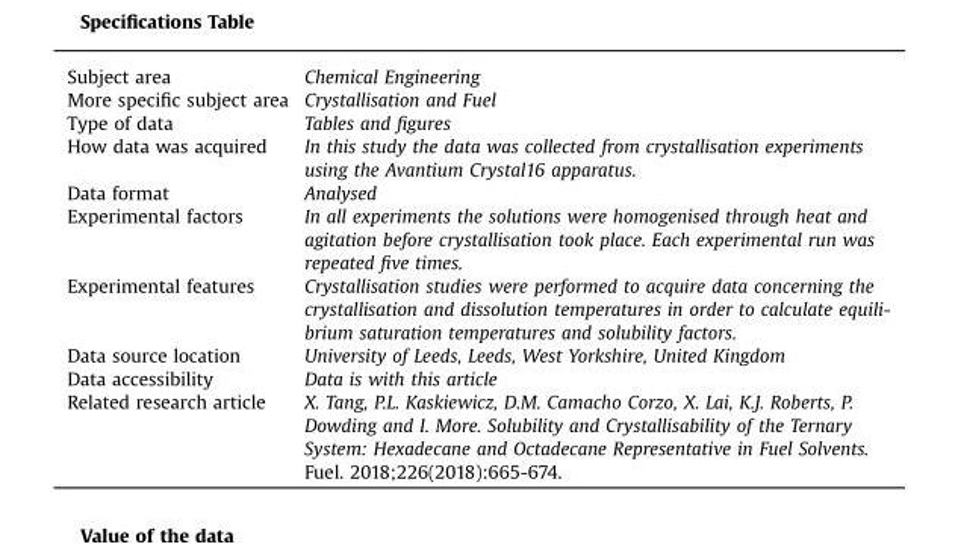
<table><tbody><tr><td>Subject area</td><td>Chemical Engineering</td></tr><tr><td>More specific subject area</td><td>Crystallisation and Fuel</td></tr><tr><td>Type of data</td><td>Tables and figures</td></tr><tr><td>How data was acquired</td><td>In this study the data was collected from crystallisation experiments using the Avantium Crystal16 apparatus.</td></tr><tr><td>Data format</td><td>Analysed</td></tr><tr><td>Experimental factors</td><td>In all experiments the solutions were homogenised through heat and agitation before crystallisation took place. Each experimental run was repeated five times.</td></tr><tr><td>Experimental features</td><td>Crystallisation studies were performed to acquire data concerning the crystallisation and dissolution temperatures in order to calculate equili- brium saturation temperatures and solubility factors.</td></tr><tr><td>Data source location</td><td>University of Leeds, Leeds, West Yorkshire, United Kingdom</td></tr><tr><td>Data accessibility</td><td>Data is with this article</td></tr><tr><td>Related research article</td><td>X. Tang, P.L. Kaskiewicz, D.M. Camacho Corzo, X. Lai, K.J. Roberts, P. Dowding and I. More. Solubility and Crystallisability of the Ternary System: Hexadecane and Octadecane Representative in Fuel Solvents. Fuel. 2018;226(2018):665-674.</td></tr></tbody></table>